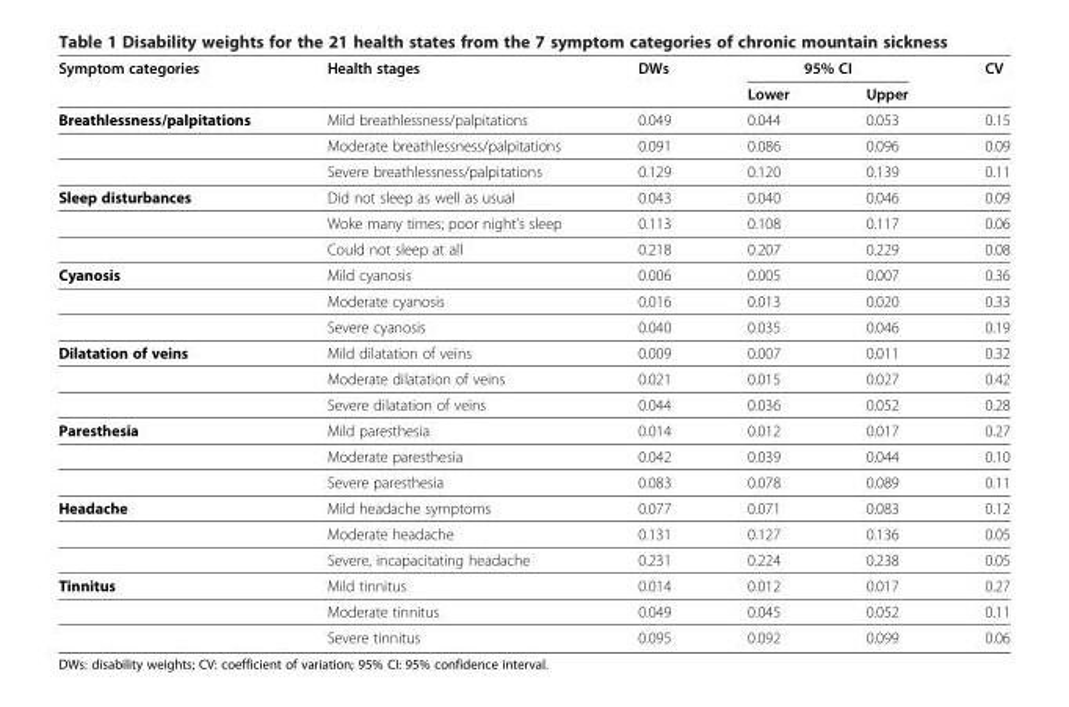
<table><thead><tr><td rowspan="2">Symptom categories</td><td rowspan="2">Health stages</td><td rowspan="2">DWs</td><td colspan="2">95% CI</td><td rowspan="2">CV</td></tr><tr><td>Lower</td><td>Upper</td></tr></thead><tbody><tr><td rowspan="3">Breathlessness/palpitations</td><td>Mild breathlessness/palpitations</td><td>0.049</td><td>0.044</td><td>0.053</td><td>0.15</td></tr><tr><td>Moderate breathlessness/palpitations</td><td>0.091</td><td>0.086</td><td>0.096</td><td>0.09</td></tr><tr><td>Severe breathlessness/palpitations</td><td>0.129</td><td>0.120</td><td>0.139</td><td>0.11</td></tr><tr><td rowspan="3">Sleep disturbances</td><td>Did not sleep as well as usual</td><td>0.043</td><td>0.040</td><td>0.046</td><td>0.09</td></tr><tr><td>Woke many times; poor night’s sleep</td><td>0.113</td><td>0.108</td><td>0.117</td><td>0.06</td></tr><tr><td>Could not sleep at all</td><td>0.218</td><td>0.207</td><td>0.229</td><td>0.08</td></tr><tr><td rowspan="3">Cyanosis</td><td>Mild cyanosis</td><td>0.006</td><td>0.005</td><td>0.007</td><td>0.36</td></tr><tr><td>Moderate cyanosis</td><td>0.016</td><td>0.013</td><td>0.020</td><td>0.33</td></tr><tr><td>Severe cyanosis</td><td>0.040</td><td>0.035</td><td>0.046</td><td>0.19</td></tr><tr><td rowspan="3">Dilatation of veins</td><td>Mild dilatation of veins</td><td>0.009</td><td>0.007</td><td>0.011</td><td>0.32</td></tr><tr><td>Moderate dilatation of veins</td><td>0.021</td><td>0.015</td><td>0.027</td><td>0.42</td></tr><tr><td>Severe dilatation of veins</td><td>0.044</td><td>0.036</td><td>0.052</td><td>0.28</td></tr><tr><td rowspan="3">Paresthesia</td><td>Mild paresthesia</td><td>0.014</td><td>0.012</td><td>0.017</td><td>0.27</td></tr><tr><td>Moderate paresthesia</td><td>0.042</td><td>0.039</td><td>0.044</td><td>0.10</td></tr><tr><td>Severe paresthesia</td><td>0.083</td><td>0.078</td><td>0.089</td><td>0.11</td></tr><tr><td rowspan="3">Headache</td><td>Mild headache symptoms</td><td>0.077</td><td>0.071</td><td>0.083</td><td>0.12</td></tr><tr><td>Moderate headache</td><td>0.131</td><td>0.127</td><td>0.136</td><td>0.05</td></tr><tr><td>Severe, incapacitating headache</td><td>0.231</td><td>0.224</td><td>0.238</td><td>0.05</td></tr><tr><td rowspan="3">Tinnitus</td><td>Mild tinnitus</td><td>0.014</td><td>0.012</td><td>0.017</td><td>0.27</td></tr><tr><td>Moderate tinnitus</td><td>0.049</td><td>0.045</td><td>0.052</td><td>0.11</td></tr><tr><td>Severe tinnitus</td><td>0.095</td><td>0.092</td><td>0.099</td><td>0.06</td></tr></tbody></table>